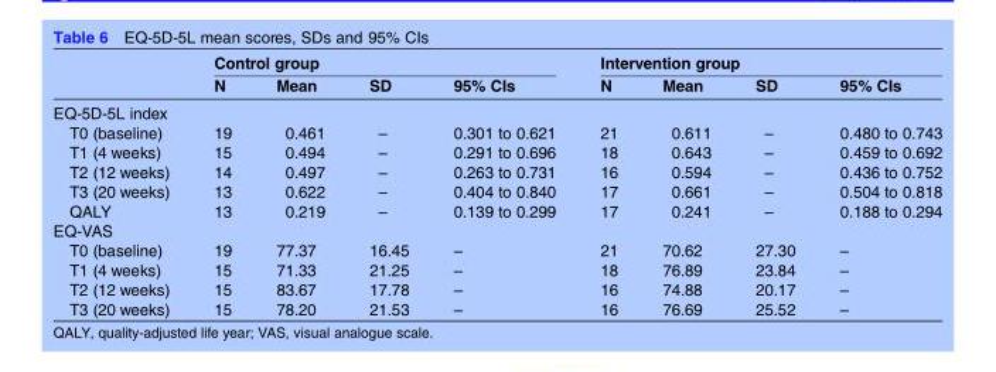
<table><thead><tr><td rowspan="2"></td><td colspan="4">Control group</td><td colspan="4">Intervention group</td></tr><tr><td>N</td><td>Mean</td><td>SD</td><td>95% CIs</td><td>N</td><td>Mean</td><td>SD</td><td>95% CIs</td></tr></thead><tbody><tr><td colspan="9">EQ-5D-5L index</td></tr><tr><td>T0 (baseline)</td><td>19</td><td>0.461</td><td>–</td><td>0.301 to 0.621</td><td>21</td><td>0.611</td><td>–</td><td>0.480 to 0.743</td></tr><tr><td>T1 (4 weeks)</td><td>15</td><td>0.494</td><td>–</td><td>0.291 to 0.696</td><td>18</td><td>0.643</td><td>–</td><td>0.459 to 0.692</td></tr><tr><td>T2 (12 weeks)</td><td>14</td><td>0.497</td><td>–</td><td>0.263 to 0.731</td><td>16</td><td>0.594</td><td>–</td><td>0.436 to 0.752</td></tr><tr><td>T3 (20 weeks)</td><td>13</td><td>0.622</td><td>–</td><td>0.404 to 0.840</td><td>17</td><td>0.661</td><td>–</td><td>0.504 to 0.818</td></tr><tr><td>QALY</td><td>13</td><td>0.219</td><td>–</td><td>0.139 to 0.299</td><td>17</td><td>0.241</td><td>–</td><td>0.188 to 0.294</td></tr><tr><td colspan="9">EQ-VAS</td></tr><tr><td>T0 (baseline)</td><td>19</td><td>77.37</td><td>16.45</td><td>–</td><td>21</td><td>70.62</td><td>27.30</td><td>–</td></tr><tr><td>T1 (4 weeks)</td><td>15</td><td>71.33</td><td>21.25</td><td>–</td><td>18</td><td>76.89</td><td>23.84</td><td>–</td></tr><tr><td>T2 (12 weeks)</td><td>15</td><td>83.67</td><td>17.78</td><td>–</td><td>16</td><td>74.88</td><td>20.17</td><td>–</td></tr><tr><td>T3 (20 weeks)</td><td>15</td><td>78.20</td><td>21.53</td><td>–</td><td>16</td><td>76.69</td><td>25.52</td><td>–</td></tr></tbody></table>